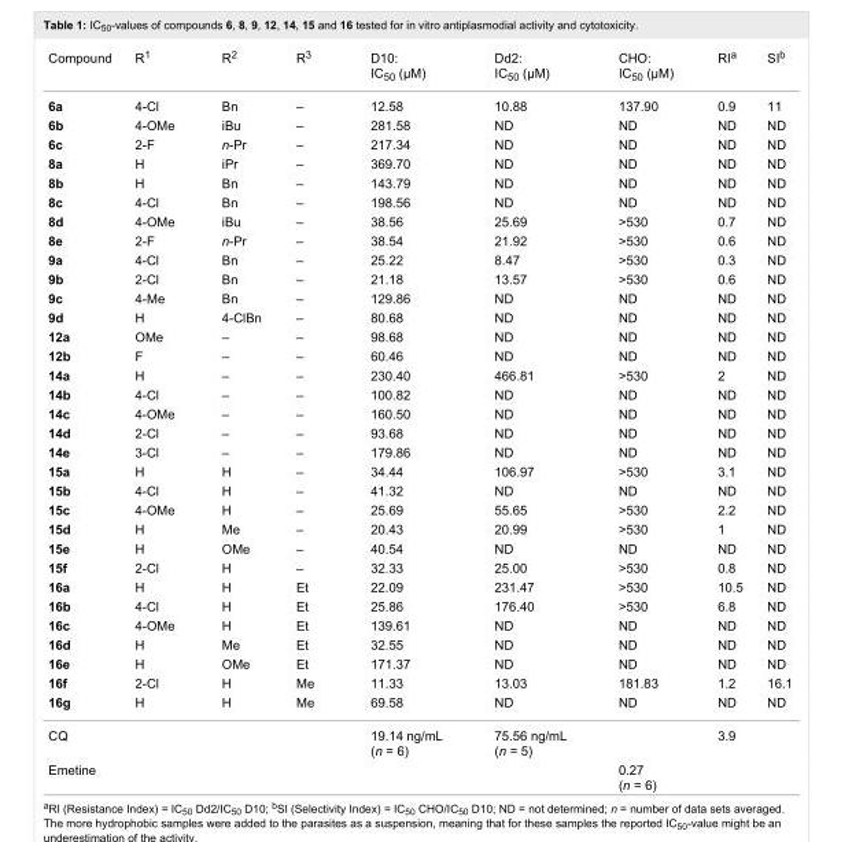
<table><tbody><tr><td>Compound</td><td>R<sup>1</sup></td><td>R<sup>2</sup></td><td>R<sup>3</sup></td><td>D10: IC<sub>50</sub> (μM)</td><td>Dd2: IC<sub>50</sub> (μM)</td><td>CHO: IC<sub>50</sub> (μM)</td><td>RI<sup>a</sup></td><td>SI<sup>b</sup></td></tr><tr><td>6a</td><td>4-Cl</td><td>Bn</td><td>–</td><td>12.58</td><td>10.88</td><td>137.90</td><td>0.9</td><td>11</td></tr><tr><td>6b</td><td>4-OMe</td><td>iBu</td><td>–</td><td>281.58</td><td>ND</td><td>ND</td><td>ND</td><td>ND</td></tr><tr><td>6c</td><td>2-F</td><td>n-Pr</td><td>–</td><td>217.34</td><td>ND</td><td>ND</td><td>ND</td><td>ND</td></tr><tr><td>8a</td><td>H</td><td>iPr</td><td>–</td><td>369.70</td><td>ND</td><td>ND</td><td>ND</td><td>ND</td></tr><tr><td>8b</td><td>H</td><td>Bn</td><td>–</td><td>143.79</td><td>ND</td><td>ND</td><td>ND</td><td>ND</td></tr><tr><td>8c</td><td>4-Cl</td><td>Bn</td><td>–</td><td>198.56</td><td>ND</td><td>ND</td><td>ND</td><td>ND</td></tr><tr><td>8d</td><td>4-OMe</td><td>iBu</td><td>–</td><td>38.56</td><td>25.69</td><td>&gt;530</td><td>0.7</td><td>ND</td></tr><tr><td>8e</td><td>2-F</td><td>n-Pr</td><td>–</td><td>38.54</td><td>21.92</td><td>&gt;530</td><td>0.6</td><td>ND</td></tr><tr><td>9a</td><td>4-Cl</td><td>Bn</td><td>–</td><td>25.22</td><td>8.47</td><td>&gt;530</td><td>0.3</td><td>ND</td></tr><tr><td>9b</td><td>2-Cl</td><td>Bn</td><td>–</td><td>21.18</td><td>13.57</td><td>&gt;530</td><td>0.6</td><td>ND</td></tr><tr><td>9c</td><td>4-Me</td><td>Bn</td><td>–</td><td>129.86</td><td>ND</td><td>ND</td><td>ND</td><td>ND</td></tr><tr><td>9d</td><td>H</td><td>4-ClBn</td><td>–</td><td>80.68</td><td>ND</td><td>ND</td><td>ND</td><td>ND</td></tr><tr><td>12a</td><td>OMe</td><td>–</td><td>–</td><td>98.68</td><td>ND</td><td>ND</td><td>ND</td><td>ND</td></tr><tr><td>12b</td><td>F</td><td>–</td><td>–</td><td>60.46</td><td>ND</td><td>ND</td><td>ND</td><td>ND</td></tr><tr><td>14a</td><td>H</td><td>–</td><td>–</td><td>230.40</td><td>466.81</td><td>&gt;530</td><td>2</td><td>ND</td></tr><tr><td>14b</td><td>4-Cl</td><td>–</td><td>–</td><td>100.82</td><td>ND</td><td>ND</td><td>ND</td><td>ND</td></tr><tr><td>14c</td><td>4-OMe</td><td>–</td><td>–</td><td>160.50</td><td>ND</td><td>ND</td><td>ND</td><td>ND</td></tr><tr><td>14d</td><td>2-Cl</td><td>–</td><td>–</td><td>93.68</td><td>ND</td><td>ND</td><td>ND</td><td>ND</td></tr><tr><td>14e</td><td>3-Cl</td><td>–</td><td>–</td><td>179.86</td><td>ND</td><td>ND</td><td>ND</td><td>ND</td></tr><tr><td>15a</td><td>H</td><td>H</td><td>–</td><td>34.44</td><td>106.97</td><td>&gt;530</td><td>3.1</td><td>ND</td></tr><tr><td>15b</td><td>4-Cl</td><td>H</td><td>–</td><td>41.32</td><td>ND</td><td>ND</td><td>ND</td><td>ND</td></tr><tr><td>15c</td><td>4-OMe</td><td>H</td><td>–</td><td>25.69</td><td>55.65</td><td>&gt;530</td><td>2.2</td><td>ND</td></tr><tr><td>15d</td><td>H</td><td>Me</td><td>–</td><td>20.43</td><td>20.99</td><td>&gt;530</td><td>1</td><td>ND</td></tr><tr><td>15e</td><td>H</td><td>OMe</td><td>–</td><td>40.54</td><td>ND</td><td>ND</td><td>ND</td><td>ND</td></tr><tr><td>15f</td><td>2-Cl</td><td>H</td><td>–</td><td>32.33</td><td>25.00</td><td>&gt;530</td><td>0.8</td><td>ND</td></tr><tr><td>16a</td><td>H</td><td>H</td><td>Et</td><td>22.09</td><td>231.47</td><td>&gt;530</td><td>10.5</td><td>ND</td></tr><tr><td>16b</td><td>4-Cl</td><td>H</td><td>Et</td><td>25.86</td><td>176.40</td><td>&gt;530</td><td>6.8</td><td>ND</td></tr><tr><td>16c</td><td>4-OMe</td><td>H</td><td>Et</td><td>139.61</td><td>ND</td><td>ND</td><td>ND</td><td>ND</td></tr><tr><td>16d</td><td>H</td><td>Me</td><td>Et</td><td>32.55</td><td>ND</td><td>ND</td><td>ND</td><td>ND</td></tr><tr><td>16e</td><td>H</td><td>OMe</td><td>Et</td><td>171.37</td><td>ND</td><td>ND</td><td>ND</td><td>ND</td></tr><tr><td>16f</td><td>2-Cl</td><td>H</td><td>Me</td><td>11.33</td><td>13.03</td><td>181.83</td><td>1.2</td><td>16.1</td></tr><tr><td>16g</td><td>H</td><td>H</td><td>Me</td><td>69.58</td><td>ND</td><td>ND</td><td>ND</td><td>ND</td></tr><tr><td>CQ</td><td></td><td></td><td></td><td>19.14 ng/mL (n = 6)</td><td>75.56 ng/mL (n = 5)</td><td></td><td>3.9</td><td></td></tr><tr><td>Emetine</td><td></td><td></td><td></td><td></td><td></td><td>0.27 (n = 6)</td><td></td><td></td></tr></tbody></table>